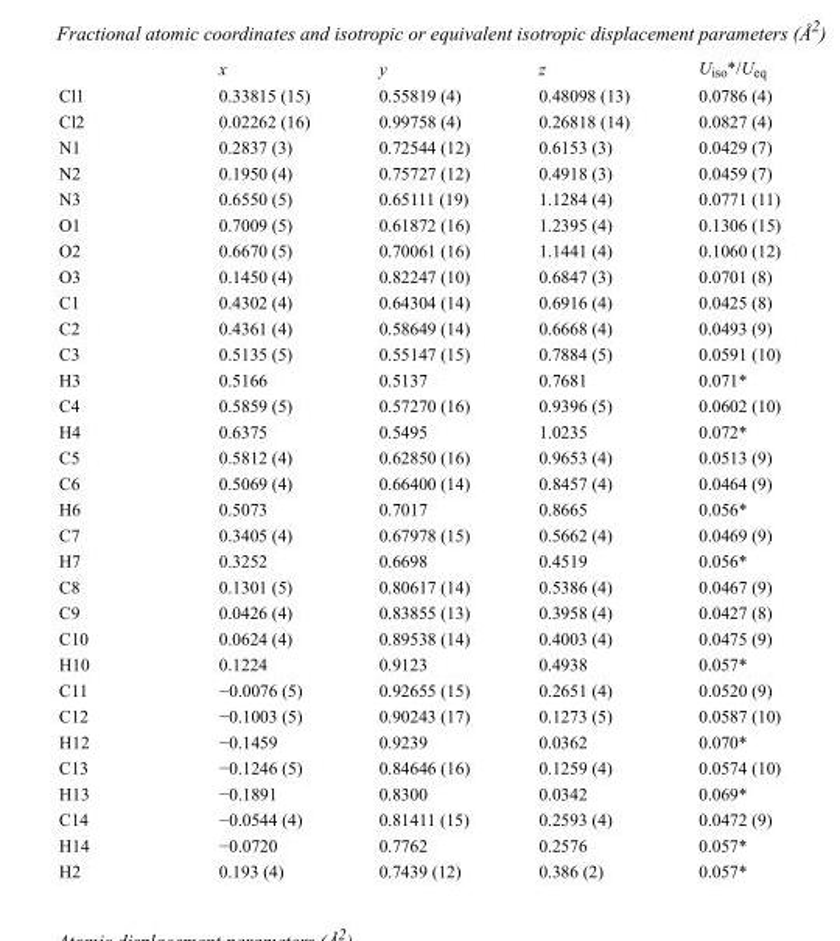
<table><thead><tr><td></td><td>x</td><td>y</td><td>z</td><td>U<sub>iso</sub>*/U<sub>eq</sub></td></tr></thead><tbody><tr><td>Cl1</td><td>0.33815 (15)</td><td>0.55819 (4)</td><td>0.48098 (13)</td><td>0.0786 (4)</td></tr><tr><td>Cl2</td><td>0.02262 (16)</td><td>0.99758 (4)</td><td>0.26818 (14)</td><td>0.0827 (4)</td></tr><tr><td>N1</td><td>0.2837 (3)</td><td>0.72544 (12)</td><td>0.6153 (3)</td><td>0.0429 (7)</td></tr><tr><td>N2</td><td>0.1950 (4)</td><td>0.75727 (12)</td><td>0.4918 (3)</td><td>0.0459 (7)</td></tr><tr><td>N3</td><td>0.6550 (5)</td><td>0.65111 (19)</td><td>1.1284 (4)</td><td>0.0771 (11)</td></tr><tr><td>O1</td><td>0.7009 (5)</td><td>0.61872 (16)</td><td>1.2395 (4)</td><td>0.1306 (15)</td></tr><tr><td>O2</td><td>0.6670 (5)</td><td>0.70061 (16)</td><td>1.1441 (4)</td><td>0.1060 (12)</td></tr><tr><td>O3</td><td>0.1450 (4)</td><td>0.82247 (10)</td><td>0.6847 (3)</td><td>0.0701 (8)</td></tr><tr><td>C1</td><td>0.4302 (4)</td><td>0.64304 (14)</td><td>0.6916 (4)</td><td>0.0425 (8)</td></tr><tr><td>C2</td><td>0.4361 (4)</td><td>0.58649 (14)</td><td>0.6668 (4)</td><td>0.0493 (9)</td></tr><tr><td>C3</td><td>0.5135 (5)</td><td>0.55147 (15)</td><td>0.7884 (5)</td><td>0.0591 (10)</td></tr><tr><td>H3</td><td>0.5166</td><td>0.5137</td><td>0.7681</td><td>0.071*</td></tr><tr><td>C4</td><td>0.5859 (5)</td><td>0.57270 (16)</td><td>0.9396 (5)</td><td>0.0602 (10)</td></tr><tr><td>H4</td><td>0.6375</td><td>0.5495</td><td>1.0235</td><td>0.072*</td></tr><tr><td>C5</td><td>0.5812 (4)</td><td>0.62850 (16)</td><td>0.9653 (4)</td><td>0.0513 (9)</td></tr><tr><td>C6</td><td>0.5069 (4)</td><td>0.66400 (14)</td><td>0.8457 (4)</td><td>0.0464 (9)</td></tr><tr><td>H6</td><td>0.5073</td><td>0.7017</td><td>0.8665</td><td>0.056*</td></tr><tr><td>C7</td><td>0.3405 (4)</td><td>0.67978 (15)</td><td>0.5662 (4)</td><td>0.0469 (9)</td></tr><tr><td>H7</td><td>0.3252</td><td>0.6698</td><td>0.4519</td><td>0.056*</td></tr><tr><td>C8</td><td>0.1301 (5)</td><td>0.80617 (14)</td><td>0.5386 (4)</td><td>0.0467 (9)</td></tr><tr><td>C9</td><td>0.0426 (4)</td><td>0.83855 (13)</td><td>0.3958 (4)</td><td>0.0427 (8)</td></tr><tr><td>C10</td><td>0.0624 (4)</td><td>0.89538 (14)</td><td>0.4003 (4)</td><td>0.0475 (9)</td></tr><tr><td>H10</td><td>0.1224</td><td>0.9123</td><td>0.4938</td><td>0.057*</td></tr><tr><td>C11</td><td>−0.0076 (5)</td><td>0.92655 (15)</td><td>0.2651 (4)</td><td>0.0520 (9)</td></tr><tr><td>C12</td><td>−0.1003 (5)</td><td>0.90243 (17)</td><td>0.1273 (5)</td><td>0.0587 (10)</td></tr><tr><td>H12</td><td>−0.1459</td><td>0.9239</td><td>0.0362</td><td>0.070*</td></tr><tr><td>C13</td><td>−0.1246 (5)</td><td>0.84646 (16)</td><td>0.1259 (4)</td><td>0.0574 (10)</td></tr><tr><td>H13</td><td>−0.1891</td><td>0.8300</td><td>0.0342</td><td>0.069*</td></tr><tr><td>C14</td><td>−0.0544 (4)</td><td>0.81411 (15)</td><td>0.2593 (4)</td><td>0.0472 (9)</td></tr><tr><td>H14</td><td>−0.0720</td><td>0.7762</td><td>0.2576</td><td>0.057*</td></tr><tr><td>H2</td><td>0.193 (4)</td><td>0.7439 (12)</td><td>0.386 (2)</td><td>0.057*</td></tr></tbody></table>